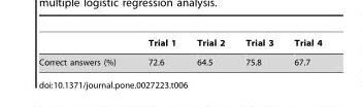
<table><thead><tr><td></td><td>Trial 1</td><td>Trial 2</td><td>Trial 3</td><td>Trial 4</td></tr></thead><tbody><tr><td>Correct answers (%)</td><td>72.6</td><td>64.5</td><td>75.8</td><td>67.7</td></tr></tbody></table>